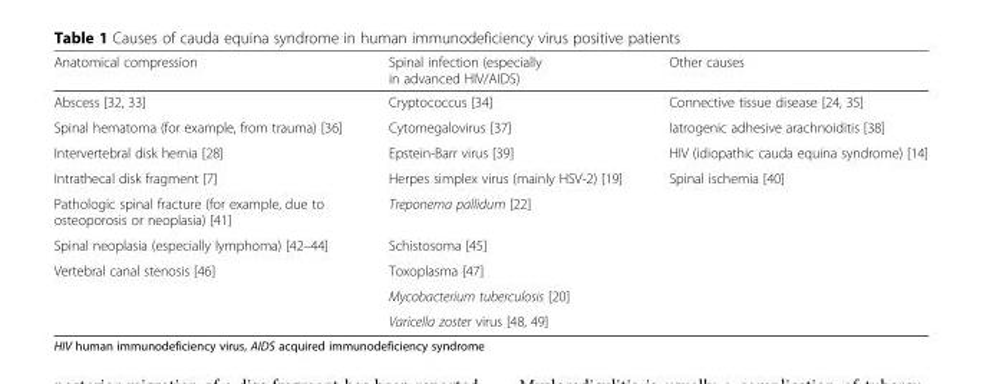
<table><thead><tr><td>Anatomical compression</td><td>Spinal infection (especially in advanced HIV/AIDS)</td><td>Other causes</td></tr></thead><tbody><tr><td>Abscess [32, 33]</td><td>Cryptococcus [34]</td><td>Connective tissue disease [24, 35]</td></tr><tr><td>Spinal hematoma (for example, from trauma) [36]</td><td>Cytomegalovirus [37]</td><td>Iatrogenic adhesive arachnoiditis [38]</td></tr><tr><td>Intervertebral disk hernia [28]</td><td>Epstein-Barr virus [39]</td><td>HIV (idiopathic cauda equina syndrome) [14]</td></tr><tr><td>Intrathecal disk fragment [7]</td><td>Herpes simplex virus (mainly HSV-2) [19]</td><td>Spinal ischemia [40]</td></tr><tr><td>Pathologic spinal fracture (for example, due to osteoporosis or neoplasia) [41]</td><td>Treponema pallidum [22]</td><td></td></tr><tr><td>Spinal neoplasia (especially lymphoma) [42–44]</td><td>Schistosoma [45]</td><td></td></tr><tr><td rowspan="3">Vertebral canal stenosis [46]</td><td>Toxoplasma [47]</td><td></td></tr><tr><td>Mycobacterium tuberculosis [20]</td><td></td></tr><tr><td>Varicella zoster virus [48, 49]</td><td></td></tr></tbody></table>